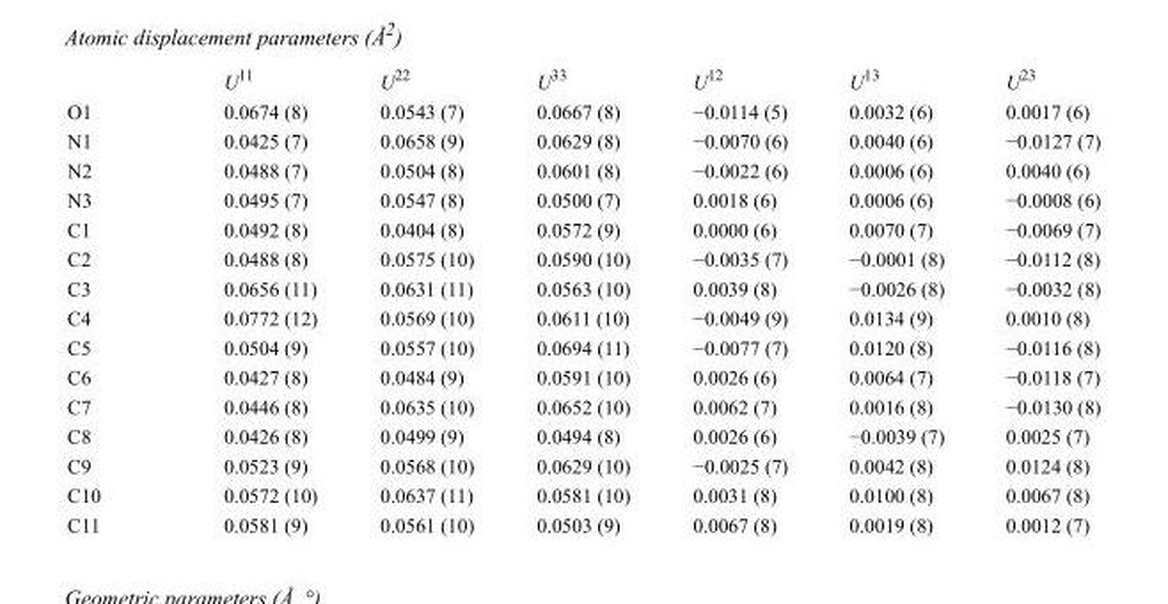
<table><thead><tr><td></td><td>U<sup>11</sup></td><td>U<sup>22</sup></td><td>U<sup>33</sup></td><td>U<sup>12</sup></td><td>U<sup>13</sup></td><td>U<sup>23</sup></td></tr></thead><tbody><tr><td>O1</td><td>0.0674 (8)</td><td>0.0543 (7)</td><td>0.0667 (8)</td><td>−0.0114 (5)</td><td>0.0032 (6)</td><td>0.0017 (6)</td></tr><tr><td>N1</td><td>0.0425 (7)</td><td>0.0658 (9)</td><td>0.0629 (8)</td><td>−0.0070 (6)</td><td>0.0040 (6)</td><td>−0.0127 (7)</td></tr><tr><td>N2</td><td>0.0488 (7)</td><td>0.0504 (8)</td><td>0.0601 (8)</td><td>−0.0022 (6)</td><td>0.0006 (6)</td><td>0.0040 (6)</td></tr><tr><td>N3</td><td>0.0495 (7)</td><td>0.0547 (8)</td><td>0.0500 (7)</td><td>0.0018 (6)</td><td>0.0006 (6)</td><td>−0.0008 (6)</td></tr><tr><td>C1</td><td>0.0492 (8)</td><td>0.0404 (8)</td><td>0.0572 (9)</td><td>0.0000 (6)</td><td>0.0070 (7)</td><td>−0.0069 (7)</td></tr><tr><td>C2</td><td>0.0488 (8)</td><td>0.0575 (10)</td><td>0.0590 (10)</td><td>−0.0035 (7)</td><td>−0.0001 (8)</td><td>−0.0112 (8)</td></tr><tr><td>C3</td><td>0.0656 (11)</td><td>0.0631 (11)</td><td>0.0563 (10)</td><td>0.0039 (8)</td><td>−0.0026 (8)</td><td>−0.0032 (8)</td></tr><tr><td>C4</td><td>0.0772 (12)</td><td>0.0569 (10)</td><td>0.0611 (10)</td><td>−0.0049 (9)</td><td>0.0134 (9)</td><td>0.0010 (8)</td></tr><tr><td>C5</td><td>0.0504 (9)</td><td>0.0557 (10)</td><td>0.0694 (11)</td><td>−0.0077 (7)</td><td>0.0120 (8)</td><td>−0.0116 (8)</td></tr><tr><td>C6</td><td>0.0427 (8)</td><td>0.0484 (9)</td><td>0.0591 (10)</td><td>0.0026 (6)</td><td>0.0064 (7)</td><td>−0.0118 (7)</td></tr><tr><td>C7</td><td>0.0446 (8)</td><td>0.0635 (10)</td><td>0.0652 (10)</td><td>0.0062 (7)</td><td>0.0016 (8)</td><td>−0.0130 (8)</td></tr><tr><td>C8</td><td>0.0426 (8)</td><td>0.0499 (9)</td><td>0.0494 (8)</td><td>0.0026 (6)</td><td>−0.0039 (7)</td><td>0.0025 (7)</td></tr><tr><td>C9</td><td>0.0523 (9)</td><td>0.0568 (10)</td><td>0.0629 (10)</td><td>−0.0025 (7)</td><td>0.0042 (8)</td><td>0.0124 (8)</td></tr><tr><td>C10</td><td>0.0572 (10)</td><td>0.0637 (11)</td><td>0.0581 (10)</td><td>0.0031 (8)</td><td>0.0100 (8)</td><td>0.0067 (8)</td></tr><tr><td>C11</td><td>0.0581 (9)</td><td>0.0561 (10)</td><td>0.0503 (9)</td><td>0.0067 (8)</td><td>0.0019 (8)</td><td>0.0012 (7)</td></tr></tbody></table>